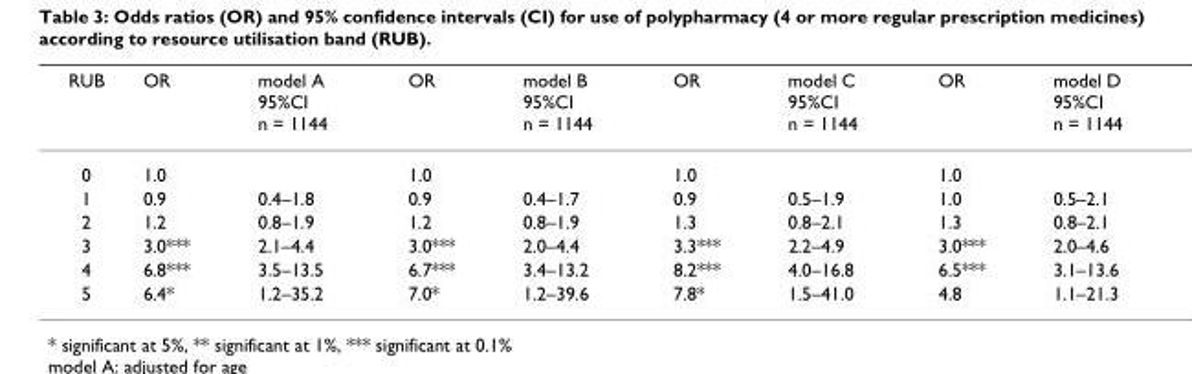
<table><thead><tr><td>RUB</td><td>OR</td><td>model A 95%CI n = 1144</td><td>OR</td><td>model B 95%CI n = 1144</td><td>OR</td><td>model C 95%CI n = 1144</td><td>OR</td><td>model D 95%CI n = 1144</td></tr></thead><tbody><tr><td>0</td><td>1.0</td><td></td><td>1.0</td><td></td><td>1.0</td><td></td><td>1.0</td><td></td></tr><tr><td>1</td><td>0.9</td><td>0.4–1.8</td><td>0.9</td><td>0.4–1.7</td><td>0.9</td><td>0.5–1.9</td><td>1.0</td><td>0.5–2.1</td></tr><tr><td>2</td><td>1.2</td><td>0.8–1.9</td><td>1.2</td><td>0.8–1.9</td><td>1.3</td><td>0.8–2.1</td><td>1.3</td><td>0.8–2.1</td></tr><tr><td>3</td><td>3.0***</td><td>2.1–4.4</td><td>3.0***</td><td>2.0–4.4</td><td>3.3***</td><td>2.2–4.9</td><td>3.0***</td><td>2.0–4.6</td></tr><tr><td>4</td><td>6.8***</td><td>3.5–13.5</td><td>6.7***</td><td>3.4–13.2</td><td>8.2***</td><td>4.0–16.8</td><td>6.5***</td><td>3.1–13.6</td></tr><tr><td>5</td><td>6.4*</td><td>1.2–35.2</td><td>7.0*</td><td>1.2–39.6</td><td>7.8*</td><td>1.5–41.0</td><td>4.8</td><td>1.1–21.3</td></tr></tbody></table>